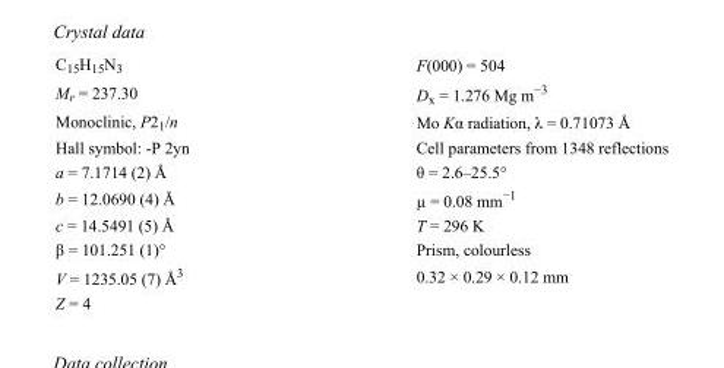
<table><tbody><tr><td>C<sub>15</sub>H<sub>15</sub>N<sub>3</sub></td><td>F(000) = 504</td></tr><tr><td>M<sub>r</sub> = 237.30</td><td>D<sub>x</sub> = 1.276 Mg m<sup>−3</sup></td></tr><tr><td>Monoclinic, P2<sub>1</sub>/n</td><td>Mo Kα radiation, λ = 0.71073 Å</td></tr><tr><td>Hall symbol: -P 2yn</td><td>Cell parameters from 1348 reflections</td></tr><tr><td>a = 7.1714 (2) Å</td><td>θ = 2.6–25.5°</td></tr><tr><td>b = 12.0690 (4) Å</td><td>µ = 0.08 mm<sup>−1</sup></td></tr><tr><td>c = 14.5491 (5) Å</td><td>T = 296 K</td></tr><tr><td>β = 101.251 (1)°</td><td>Prism, colourless</td></tr><tr><td>V = 1235.05 (7) Å<sup>3</sup></td><td>0.32 × 0.29 × 0.12 mm</td></tr><tr><td>Z = 4</td><td></td></tr></tbody></table>